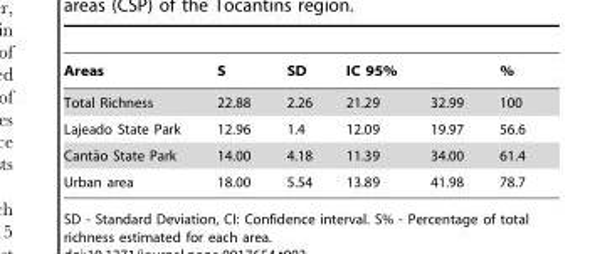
<table><thead><tr><td rowspan="2">Areas Total Richness</td><td rowspan="2">S 22.88</td><td rowspan="2">SD 2.26</td><td colspan="2">IC 95%</td><td rowspan="2">% 100</td></tr><tr><td>21.29</td><td>32.99</td></tr></thead><tbody><tr><td>Lajeado State Park</td><td>12.96</td><td>1.4</td><td>12.09</td><td>19.97</td><td>56.6</td></tr><tr><td>Canta˜o State Park</td><td>14.00</td><td>4.18</td><td>11.39</td><td>34.00</td><td>61.4</td></tr><tr><td>Urban area</td><td>18.00</td><td>5.54</td><td>13.89</td><td>41.98</td><td>78.7</td></tr></tbody></table>